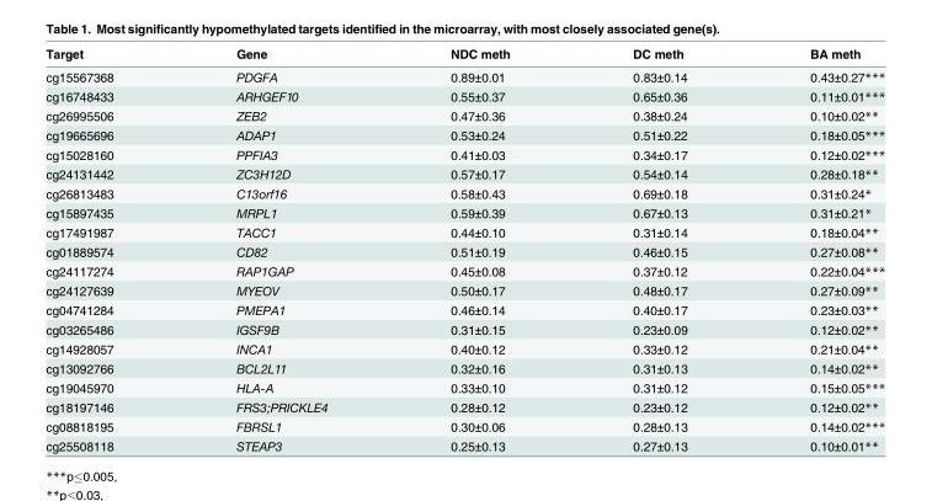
<table><thead><tr><td>Target</td><td>Gene</td><td>NDC meth</td><td>DC meth</td><td>BA meth</td></tr></thead><tbody><tr><td>cg15567368</td><td>PDGFA</td><td>0.89±0.01</td><td>0.83±0.14</td><td>0.43±0.27***</td></tr><tr><td>cg16748433</td><td>ARHGEF10</td><td>0.55±0.37</td><td>0.65±0.36</td><td>0.11±0.01***</td></tr><tr><td>cg26995506</td><td>ZEB2</td><td>0.47±0.36</td><td>0.38±0.24</td><td>0.10±0.02**</td></tr><tr><td>cg19665696</td><td>ADAP1</td><td>0.53±0.24</td><td>0.51±0.22</td><td>0.18±0.05***</td></tr><tr><td>cg15028160</td><td>PPFIA3</td><td>0.41±0.03</td><td>0.34±0.17</td><td>0.12±0.02***</td></tr><tr><td>cg24131442</td><td>ZC3H12D</td><td>0.57±0.17</td><td>0.54±0.14</td><td>0.28±0.18**</td></tr><tr><td>cg26813483</td><td>C13orf16</td><td>0.58±0.43</td><td>0.69±0.18</td><td>0.31±0.24*</td></tr><tr><td>cg15897435</td><td>MRPL1</td><td>0.59±0.39</td><td>0.67±0.13</td><td>0.31±0.21*</td></tr><tr><td>cg17491987</td><td>TACC1</td><td>0.44±0.10</td><td>0.31±0.14</td><td>0.18±0.04**</td></tr><tr><td>cg01889574</td><td>CD82</td><td>0.51±0.19</td><td>0.46±0.15</td><td>0.27±0.08**</td></tr><tr><td>cg24117274</td><td>RAP1GAP</td><td>0.45±0.08</td><td>0.37±0.12</td><td>0.22±0.04***</td></tr><tr><td>cg24127639</td><td>MYEOV</td><td>0.50±0.17</td><td>0.48±0.17</td><td>0.27±0.09**</td></tr><tr><td>cg04741284</td><td>PMEPA1</td><td>0.46±0.14</td><td>0.40±0.17</td><td>0.23±0.03**</td></tr><tr><td>cg03265486</td><td>IGSF9B</td><td>0.31±0.15</td><td>0.23±0.09</td><td>0.12±0.02**</td></tr><tr><td>cg14928057</td><td>INCA1</td><td>0.40±0.12</td><td>0.33±0.12</td><td>0.21±0.04**</td></tr><tr><td>cg13092766</td><td>BCL2L11</td><td>0.32±0.16</td><td>0.31±0.13</td><td>0.14±0.02**</td></tr><tr><td>cg19045970</td><td>HLA-A</td><td>0.33±0.10</td><td>0.31±0.12</td><td>0.15±0.05***</td></tr><tr><td>cg18197146</td><td>FRS3;PRICKLE4</td><td>0.28±0.12</td><td>0.23±0.12</td><td>0.12±0.02**</td></tr><tr><td>cg08818195</td><td>FBRSL1</td><td>0.30±0.06</td><td>0.28±0.13</td><td>0.14±0.02***</td></tr><tr><td>cg25508118</td><td>STEAP3</td><td>0.25±0.13</td><td>0.27±0.13</td><td>0.10±0.01**</td></tr></tbody></table>